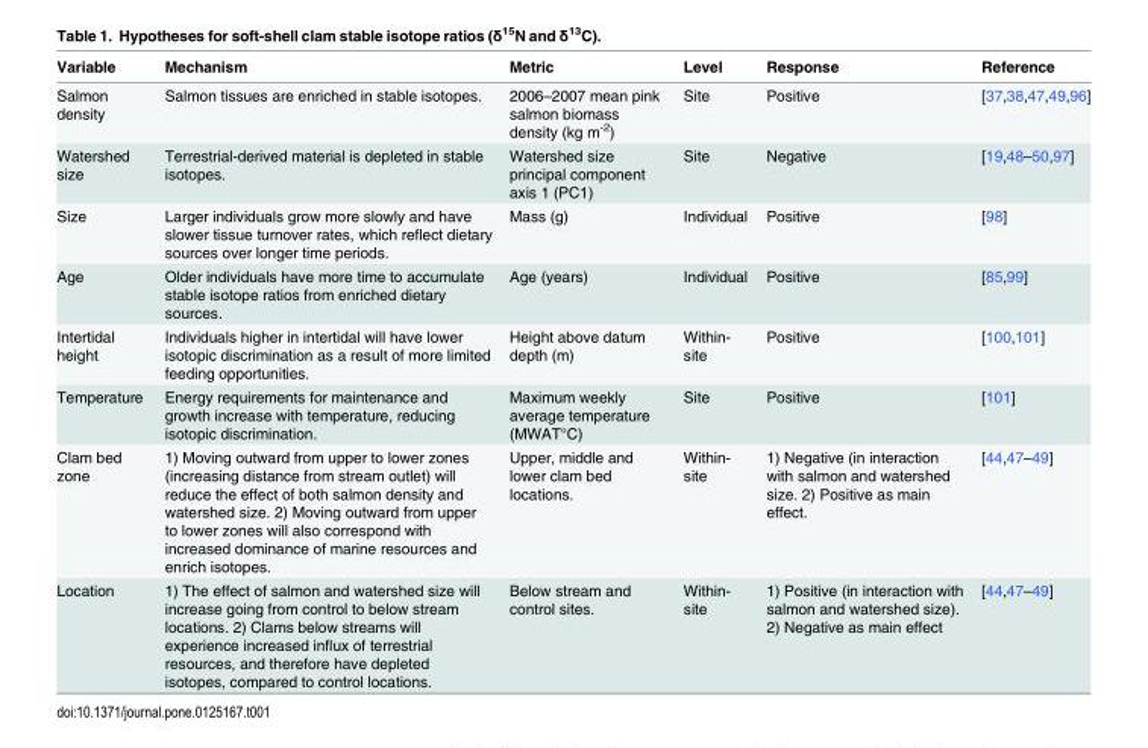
<table><thead><tr><td>Variable</td><td>Mechanism</td><td>Metric</td><td>Level</td><td>Response</td><td>Reference</td></tr></thead><tbody><tr><td>Salmon density</td><td>Salmon tissues are enriched in stable isotopes.</td><td>2006–2007 mean pink salmon biomass density (kg m<sup>-2</sup>)</td><td>Site</td><td>Positive</td><td>[37,38,47,49,96]</td></tr><tr><td>Watershed size</td><td>Terrestrial-derived material is depleted in stable isotopes.</td><td>Watershed size principal component axis 1 (PC1)</td><td>Site</td><td>Negative</td><td>[19,48–50,97]</td></tr><tr><td>Size</td><td>Larger individuals grow more slowly and have slower tissue turnover rates, which reflect dietary sources over longer time periods.</td><td>Mass (g)</td><td>Individual</td><td>Positive</td><td>[98]</td></tr><tr><td>Age</td><td>Older individuals have more time to accumulate stable isotope ratios from enriched dietary sources.</td><td>Age (years)</td><td>Individual</td><td>Positive</td><td>[85,99]</td></tr><tr><td>Intertidal height</td><td>Individuals higher in intertidal will have lower isotopic discrimination as a result of more limited feeding opportunities.</td><td>Height above datum depth (m)</td><td>Within- site</td><td>Positive</td><td>[100,101]</td></tr><tr><td>Temperature</td><td>Energy requirements for maintenance and growth increase with temperature, reducing isotopic discrimination.</td><td>Maximum weekly average temperature (MWAT°C)</td><td>Site</td><td>Positive</td><td>[101]</td></tr><tr><td>Clam bed zone</td><td>1) Moving outward from upper to lower zones (increasing distance from stream outlet) will reduce the effect of both salmon density and watershed size. 2) Moving outward from upper to lower zones will also correspond with increased dominance of marine resources and enrich isotopes.</td><td>Upper, middle and lower clam bed locations.</td><td>Within- site</td><td>1) Negative (in interaction with salmon and watershed size. 2) Positive as main effect.</td><td>[44,47–49]</td></tr><tr><td>Location</td><td>1) The effect of salmon and watershed size will increase going from control to below stream locations. 2) Clams below streams will experience increased influx of terrestrial resources, and therefore have depleted isotopes, compared to control locations.</td><td>Below stream and control sites.</td><td>Within- site</td><td>1) Positive (in interaction with salmon and watershed size). 2) Negative as main effect</td><td>[44,47–49]</td></tr></tbody></table>